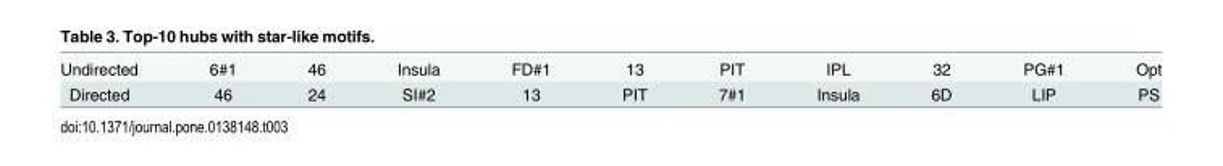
<table><tbody><tr><td>Undirected</td><td>6#1</td><td>46</td><td>Insula</td><td>FD#1</td><td>13</td><td>PIT</td><td>IPL</td><td>32</td><td>PG#1</td><td>Opt</td></tr><tr><td>Directed</td><td>46</td><td>24</td><td>SI#2</td><td>13</td><td>PIT</td><td>7#1</td><td>Insula</td><td>6D</td><td>LIP</td><td>PS</td></tr></tbody></table>